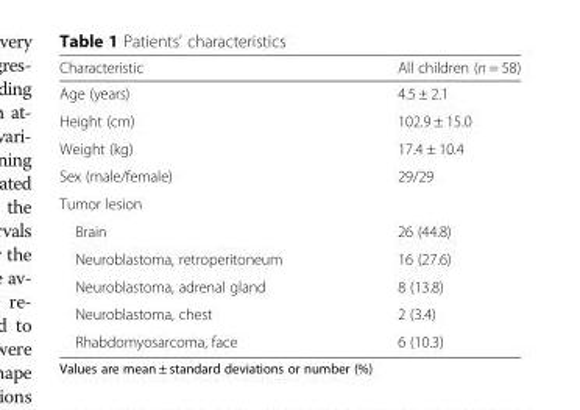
<table><thead><tr><td>Characteristic</td><td>All children (n = 58)</td></tr></thead><tbody><tr><td>Age (years)</td><td>4.5 ± 2.1</td></tr><tr><td>Height (cm)</td><td>102.9 ± 15.0</td></tr><tr><td>Weight (kg)</td><td>17.4 ± 10.4</td></tr><tr><td>Sex (male/female)</td><td>29/29</td></tr><tr><td colspan="2">Tumor lesion</td></tr><tr><td>Brain</td><td>26 (44.8)</td></tr><tr><td>Neuroblastoma, retroperitoneum</td><td>16 (27.6)</td></tr><tr><td>Neuroblastoma, adrenal gland</td><td>8 (13.8)</td></tr><tr><td>Neuroblastoma, chest</td><td>2 (3.4)</td></tr><tr><td>Rhabdomyosarcoma, face</td><td>6 (10.3)</td></tr></tbody></table>